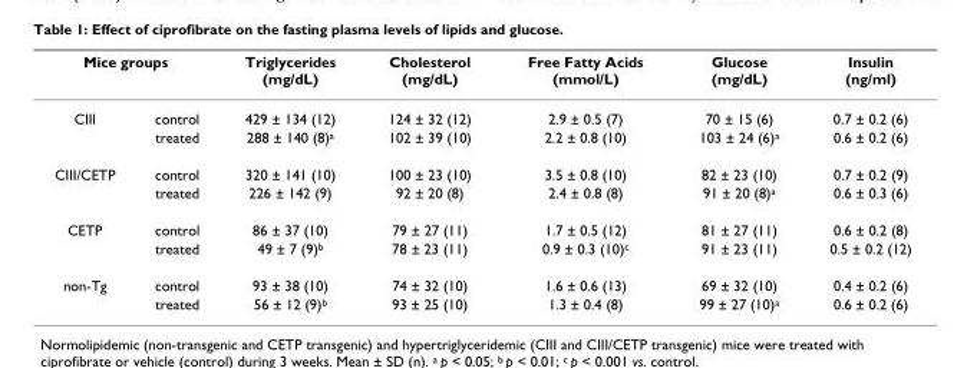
<table><thead><tr><td colspan="2">Mice groups</td><td rowspan="2">Triglycerides (mg/dL) 429 ± 134 (12)</td><td rowspan="2">Cholesterol (mg/dL) 124 ± 32 (12)</td><td rowspan="2">Free Fatty Acids (mmol/L) 2.9 ± 0.5 (7)</td><td rowspan="2">Glucose (mg/dL) 70 ± 15 (6)</td><td rowspan="2">Insulin (ng/ml) 0.7 ± 0.2 (6)</td></tr><tr><td>CIII</td><td>control</td></tr></thead><tbody><tr><td></td><td>treated</td><td>288 ± 140 (8)<sup>a</sup></td><td>102 ± 39 (10)</td><td>2.2 ± 0.8 (10)</td><td>103 ± 24 (6)<sup>a</sup></td><td>0.6 ± 0.2 (6)</td></tr><tr><td rowspan="2">CIII/CETP</td><td>control</td><td>320 ± 141 (10)</td><td>100 ± 23 (10)</td><td>3.5 ± 0.8 (10)</td><td>82 ± 23 (10)</td><td>0.7 ± 0.2 (9)</td></tr><tr><td>treated</td><td>226 ± 142 (9)</td><td>92 ± 20 (8)</td><td>2.4 ± 0.8 (8)</td><td>91 ± 20 (8)<sup>a</sup></td><td>0.6 ± 0.3 (6)</td></tr><tr><td rowspan="2">CETP</td><td>control</td><td>86 ± 37 (10)</td><td>79 ± 27 (11)</td><td>1.7 ± 0.5 (12)</td><td>81 ± 27 (11)</td><td>0.6 ± 0.2 (8)</td></tr><tr><td>treated</td><td>49 ± 7 (9)<sup>b</sup></td><td>78 ± 23 (11)</td><td>0.9 ± 0.3 (10)<sup>c</sup></td><td>91 ± 23 (11)</td><td>0.5 ± 0.2 (12)</td></tr><tr><td rowspan="2">non-Tg</td><td>control</td><td>93 ± 38 (10)</td><td>74 ± 32 (10)</td><td>1.6 ± 0.6 (13)</td><td>69 ± 32 (10)</td><td>0.4 ± 0.2 (6)</td></tr><tr><td>treated</td><td>56 ± 12 (9)<sup>b</sup></td><td>93 ± 25 (10)</td><td>1.3 ± 0.4 (8)</td><td>99 ± 27 (10)<sup>a</sup></td><td>0.6 ± 0.2 (6)</td></tr></tbody></table>